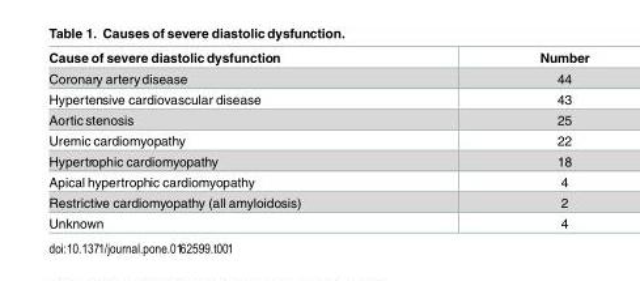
<table><thead><tr><td>Cause of severe diastolic dysfunction</td><td>Number</td></tr></thead><tbody><tr><td>Coronary arterydisease</td><td>44</td></tr><tr><td>Hypertensive cardiovascular disease</td><td>43</td></tr><tr><td>Aortic stenosis</td><td>25</td></tr><tr><td>Uremic cardiomyopathy</td><td>22</td></tr><tr><td>Hypertrophic cardiomyopathy</td><td>18</td></tr><tr><td>Apical hypertrophic cardiomyopathy</td><td>4</td></tr><tr><td>Restrictive cardiomyopathy (all amyloidosis)</td><td>2</td></tr><tr><td>Unknown</td><td>4</td></tr></tbody></table>